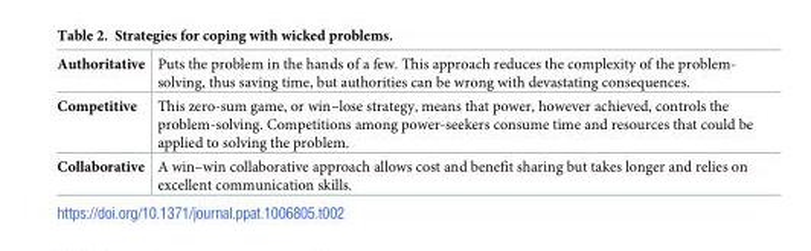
<table><tbody><tr><td>Authoritative</td><td>Puts the problem in the hands of a few. This approach reduces the complexity of the problem- solving, thus saving time, but authorities can be wrong with devastating consequences.</td></tr><tr><td>Competitive</td><td>This zero-sum game, or win–lose strategy, means that power, however achieved, controls the problem-solving. Competitions among power-seekers consume time and resources that could be applied to solving the problem.</td></tr><tr><td>Collaborative</td><td>A win–win collaborative approach allows cost and benefit sharing but takes longer and relies on excellent communication skills.</td></tr></tbody></table>